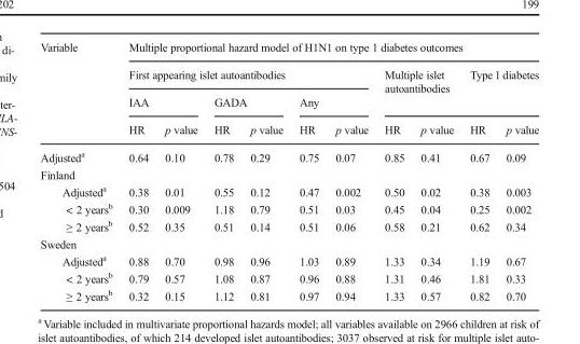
<table><thead><tr><td rowspan="4">Variable</td><td colspan="10">Multiple proportional hazard model of H1N1 on type 1 diabetes outcomes</td></tr><tr><td colspan="6">First appearing islet autoantibodies</td><td rowspan="2" colspan="2">Multiple islet autoantibodies</td><td rowspan="2" colspan="2">Type 1 diabetes</td></tr><tr><td colspan="2">IAA</td><td colspan="2">GADA</td><td colspan="2">Any</td></tr><tr><td>HR</td><td>p value</td><td>HR</td><td>p value</td><td>HR</td><td>p value</td><td>HR</td><td>p value</td><td>HR</td><td>p value</td></tr></thead><tbody><tr><td>Adjusted<sup>a</sup></td><td>0.64</td><td>0.10</td><td>0.78</td><td>0.29</td><td>0.75</td><td>0.07</td><td>0.85</td><td>0.41</td><td>0.67</td><td>0.09</td></tr><tr><td colspan="11">Finland</td></tr><tr><td>Adjusted<sup>a</sup></td><td>0.38</td><td>0.01</td><td>0.55</td><td>0.12</td><td>0.47</td><td>0.002</td><td>0.50</td><td>0.02</td><td>0.38</td><td>0.003</td></tr><tr><td>&lt; 2 years<sup>b</sup></td><td>0.30</td><td>0.009</td><td>1.18</td><td>0.79</td><td>0.51</td><td>0.03</td><td>0.45</td><td>0.04</td><td>0.25</td><td>0.002</td></tr><tr><td>≥ 2 years<sup>b</sup></td><td>0.52</td><td>0.35</td><td>0.51</td><td>0.14</td><td>0.51</td><td>0.06</td><td>0.58</td><td>0.21</td><td>0.62</td><td>0.34</td></tr><tr><td colspan="11">Sweden</td></tr><tr><td>Adjusted<sup>a</sup></td><td>0.88</td><td>0.70</td><td>0.98</td><td>0.96</td><td>1.03</td><td>0.89</td><td>1.33</td><td>0.34</td><td>1.19</td><td>0.67</td></tr><tr><td>&lt; 2 years<sup>b</sup></td><td>0.79</td><td>0.57</td><td>1.08</td><td>0.87</td><td>0.96</td><td>0.88</td><td>1.31</td><td>0.46</td><td>1.81</td><td>0.33</td></tr><tr><td>≥ 2 years<sup>b</sup></td><td>0.32</td><td>0.15</td><td>1.12</td><td>0.81</td><td>0.97</td><td>0.94</td><td>1.33</td><td>0.57</td><td>0.82</td><td>0.70</td></tr></tbody></table>